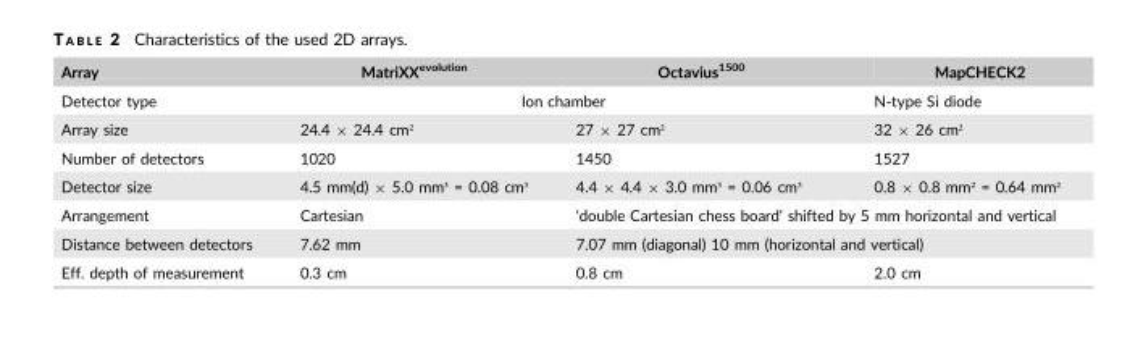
<table><thead><tr><td>Array</td><td>MatriXX<sup>evolution</sup></td><td>Octavius<sup>1500</sup></td><td>MapCHECK2</td></tr></thead><tbody><tr><td>Detector type</td><td colspan="2">Ion chamber</td><td>N-type Si diode</td></tr><tr><td>Array size</td><td>24.4 × 24.4 cm²</td><td>27 × 27 cm²</td><td>32 × 26 cm²</td></tr><tr><td>Number of detectors</td><td>1020</td><td>1450</td><td>1527</td></tr><tr><td>Detector size</td><td>4.5 mm(d) × 5.0 mm³ = 0.08 cm³</td><td>4.4 × 4.4 × 3.0 mm³ = 0.06 cm³</td><td>0.8 × 0.8 mm² = 0.64 mm²</td></tr><tr><td>Arrangement</td><td>Cartesian</td><td colspan="2">‘double Cartesian chess board’ shifted by 5 mm horizontal and vertical</td></tr><tr><td>Distance between detectors</td><td>7.62 mm</td><td colspan="2">7.07 mm (diagonal) 10 mm (horizontal and vertical)</td></tr><tr><td>Eff. depth of measurement</td><td>0.3 cm</td><td>0.8 cm</td><td>2.0 cm</td></tr></tbody></table>